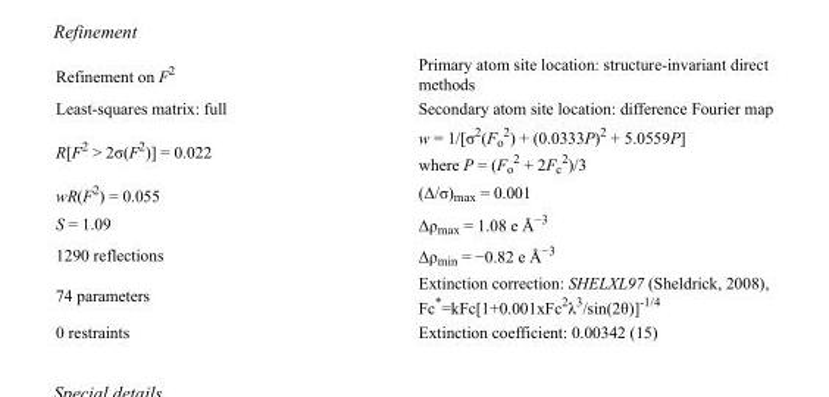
<table><tbody><tr><td>Refinement on F<sup>2</sup></td><td>Primary atom site location: structure-invariant direct methods</td></tr><tr><td>Least-squares matrix: full</td><td>Secondary atom site location: difference Fourier map</td></tr><tr><td>R[F<sup>2</sup> &gt; 2σ(F<sup>2</sup>)] = 0.022</td><td>w = 1/[σ<sup>2</sup>(F<sub>o</sub> <sup>2</sup>) + (0.0333P)<sup>2</sup> + 5.0559P] where P = (F<sub>o</sub> <sup>2</sup> + 2F<sub>c</sub> <sup>2</sup>)/3</td></tr><tr><td>wR(F<sup>2</sup>) = 0.055</td><td>(Δ/σ)<sub>max</sub> = 0.001</td></tr><tr><td>S = 1.09</td><td>Δρ<sub>max</sub> = 1.08 e Å<sup>−3</sup></td></tr><tr><td>1290 reflections</td><td>Δρ<sub>min</sub> = −0.82 e Å<sup>−3</sup></td></tr><tr><td>74 parameters</td><td>Extinction correction: SHELXL97 (Sheldrick, 2008), Fc*=kFc[1+0.001xFc<sup>2</sup>λ<sup>3</sup>/sin(2θ)]<sup>-1/4</sup></td></tr><tr><td>0 restraints</td><td>Extinction coefficient: 0.00342 (15)</td></tr></tbody></table>